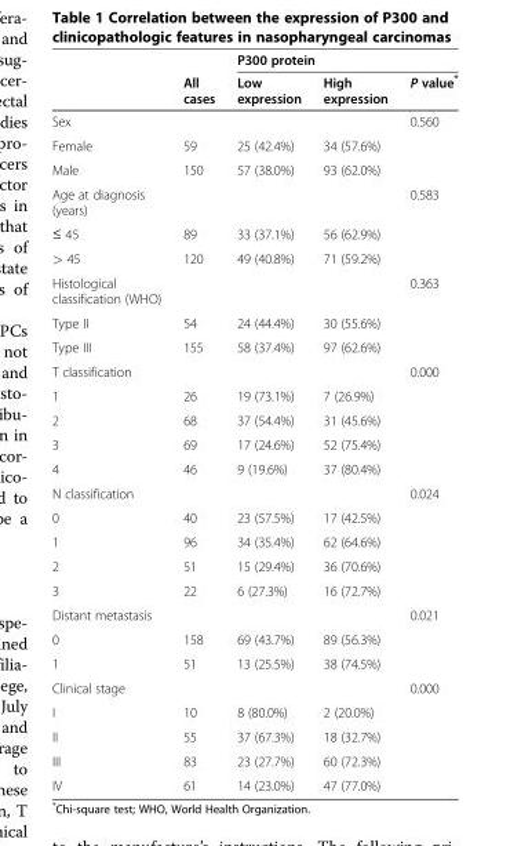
<table><thead><tr><td rowspan="2"></td><td rowspan="2">All cases</td><td colspan="3">P300 protein</td></tr><tr><td>Low expression</td><td>High expression</td><td>P value*</td></tr></thead><tbody><tr><td>Sex</td><td></td><td></td><td></td><td>0.560</td></tr><tr><td>Female</td><td>59</td><td>25 (42.4%)</td><td>34 (57.6%)</td><td></td></tr><tr><td>Male</td><td>150</td><td>57 (38.0%)</td><td>93 (62.0%)</td><td></td></tr><tr><td>Age at diagnosis (years)</td><td></td><td></td><td></td><td>0.583</td></tr><tr><td>≤ 45</td><td>89</td><td>33 (37.1%)</td><td>56 (62.9%)</td><td></td></tr><tr><td>&gt; 45</td><td>120</td><td>49 (40.8%)</td><td>71 (59.2%)</td><td></td></tr><tr><td>Histological classification (WHO)</td><td></td><td></td><td></td><td>0.363</td></tr><tr><td>Type II</td><td>54</td><td>24 (44.4%)</td><td>30 (55.6%)</td><td></td></tr><tr><td>Type III</td><td>155</td><td>58 (37.4%)</td><td>97 (62.6%)</td><td></td></tr><tr><td>T classification</td><td></td><td></td><td></td><td>0.000</td></tr><tr><td>1</td><td>26</td><td>19 (73.1%)</td><td>7 (26.9%)</td><td></td></tr><tr><td>2</td><td>68</td><td>37 (54.4%)</td><td>31 (45.6%)</td><td></td></tr><tr><td>3</td><td>69</td><td>17 (24.6%)</td><td>52 (75.4%)</td><td></td></tr><tr><td>4</td><td>46</td><td>9 (19.6%)</td><td>37 (80.4%)</td><td></td></tr><tr><td>N classification</td><td></td><td></td><td></td><td>0.024</td></tr><tr><td>0</td><td>40</td><td>23 (57.5%)</td><td>17 (42.5%)</td><td></td></tr><tr><td>1</td><td>96</td><td>34 (35.4%)</td><td>62 (64.6%)</td><td></td></tr><tr><td>2</td><td>51</td><td>15 (29.4%)</td><td>36 (70.6%)</td><td></td></tr><tr><td>3</td><td>22</td><td>6 (27.3%)</td><td>16 (72.7%)</td><td></td></tr><tr><td>Distant metastasis</td><td></td><td></td><td></td><td>0.021</td></tr><tr><td>0</td><td>158</td><td>69 (43.7%)</td><td>89 (56.3%)</td><td></td></tr><tr><td>1</td><td>51</td><td>13 (25.5%)</td><td>38 (74.5%)</td><td></td></tr><tr><td>Clinical stage</td><td></td><td></td><td></td><td>0.000</td></tr><tr><td>I</td><td>10</td><td>8 (80.0%)</td><td>2 (20.0%)</td><td></td></tr><tr><td>II</td><td>55</td><td>37 (67.3%)</td><td>18 (32.7%)</td><td></td></tr><tr><td>III</td><td>83</td><td>23 (27.7%)</td><td>60 (72.3%)</td><td></td></tr><tr><td>IV</td><td>61</td><td>14 (23.0%)</td><td>47 (77.0%)</td><td></td></tr></tbody></table>